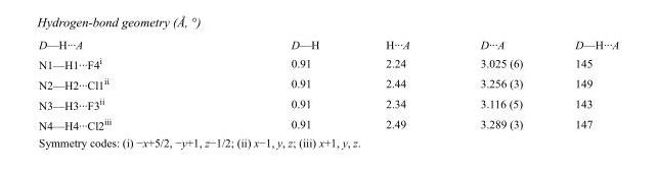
<table><tbody><tr><td>D—H···A</td><td>D—H</td><td>H···A</td><td>D···A</td><td>D—H···A</td></tr><tr><td>N1—H1···F4<sup>i</sup></td><td>0.91</td><td>2.24</td><td>3.025 (6)</td><td>145</td></tr><tr><td>N2—H2···Cl1<sup>ii</sup></td><td>0.91</td><td>2.44</td><td>3.256 (3)</td><td>149</td></tr><tr><td>N3—H3···F3<sup>ii</sup></td><td>0.91</td><td>2.34</td><td>3.116 (5)</td><td>143</td></tr><tr><td>N4—H4···Cl2<sup>iii</sup></td><td>0.91</td><td>2.49</td><td>3.289 (3)</td><td>147</td></tr></tbody></table>